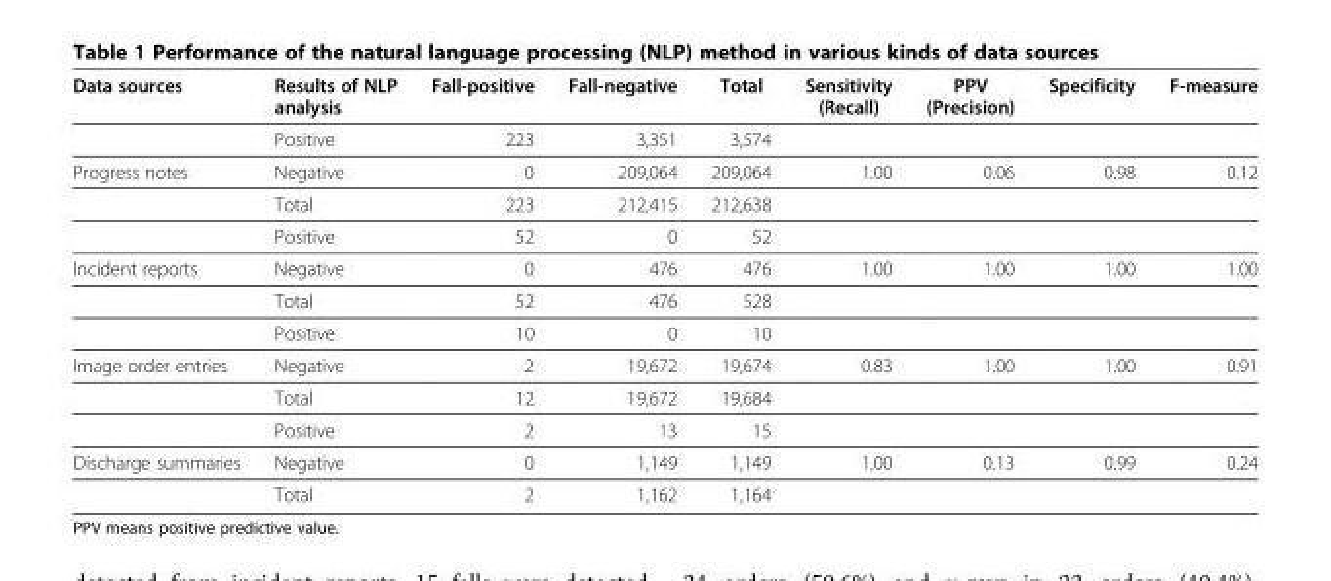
<table><thead><tr><td>Data sources</td><td>Results of NLP analysis</td><td>Fall-positive</td><td>Fall-negative</td><td>Total</td><td>Sensitivity (Recall)</td><td>PPV (Precision)</td><td>Specificity</td><td>F-measure</td></tr></thead><tbody><tr><td></td><td>Positive</td><td>223</td><td>3,351</td><td>3,574</td><td></td><td></td><td></td><td></td></tr><tr><td rowspan="3">Progress notes</td><td>Negative</td><td>0</td><td>209,064</td><td>209,064</td><td>1.00</td><td>0.06</td><td>0.98</td><td>0.12</td></tr><tr><td>Total</td><td>223</td><td>212,415</td><td>212,638</td><td></td><td></td><td></td><td></td></tr><tr><td>Positive</td><td>52</td><td>0</td><td>52</td><td></td><td></td><td></td><td></td></tr><tr><td rowspan="3">Incident reports</td><td>Negative</td><td>0</td><td>476</td><td>476</td><td>1.00</td><td>1.00</td><td>1.00</td><td>1.00</td></tr><tr><td>Total</td><td>52</td><td>476</td><td>528</td><td></td><td></td><td></td><td></td></tr><tr><td>Positive</td><td>10</td><td>0</td><td>10</td><td></td><td></td><td></td><td></td></tr><tr><td rowspan="3">Image order entries</td><td>Negative</td><td>2</td><td>19,672</td><td>19,674</td><td>0.83</td><td>1.00</td><td>1.00</td><td>0.91</td></tr><tr><td>Total</td><td>12</td><td>19,672</td><td>19,684</td><td></td><td></td><td></td><td></td></tr><tr><td>Positive</td><td>2</td><td>13</td><td>15</td><td></td><td></td><td></td><td></td></tr><tr><td rowspan="2">Discharge summaries</td><td>Negative</td><td>0</td><td>1,149</td><td>1,149</td><td>1.00</td><td>0.13</td><td>0.99</td><td>0.24</td></tr><tr><td>Total</td><td>2</td><td>1,162</td><td>1,164</td><td></td><td></td><td></td><td></td></tr></tbody></table>